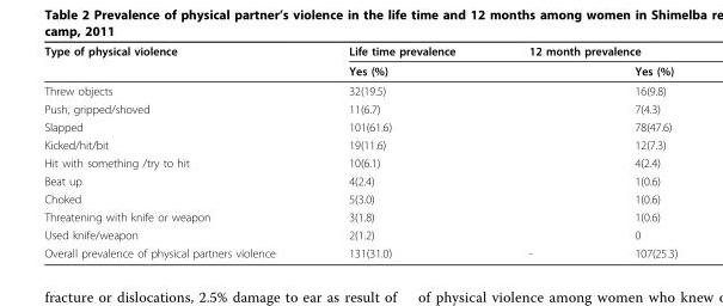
<table><thead><tr><td rowspan="2">Type of physical violence</td><td rowspan="2">Life time prevalence Yes (%)</td><td colspan="2">12 month prevalence</td></tr><tr><td></td><td>Yes (%)</td></tr></thead><tbody><tr><td>Threw objects</td><td>32(19.5)</td><td></td><td>16(9.8)</td></tr><tr><td>Push, gripped/shoved</td><td>11(6.7)</td><td></td><td>7(4.3)</td></tr><tr><td>Slapped</td><td>101(61.6)</td><td></td><td>78(47.6)</td></tr><tr><td>Kicked/hit/bit</td><td>19(11.6)</td><td></td><td>12(7.3)</td></tr><tr><td>Hit with something /try to hit</td><td>10(6.1)</td><td></td><td>4(2.4)</td></tr><tr><td>Beat up</td><td>4(2.4)</td><td></td><td>1(0.6)</td></tr><tr><td>Choked</td><td>5(3.0)</td><td></td><td>1(0.6)</td></tr><tr><td>Threatening with knife or weapon</td><td>3(1.8)</td><td></td><td>1(0.6)</td></tr><tr><td>Used knife/weapon</td><td>2(1.2)</td><td></td><td>0</td></tr><tr><td>Overall prevalence of physical partners violence</td><td>131(31.0)</td><td>-</td><td>107(25.3)</td></tr></tbody></table>